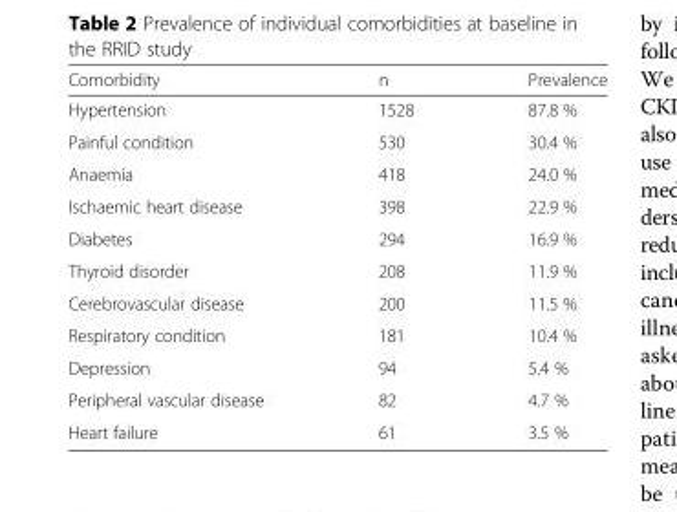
<table><thead><tr><td>Comorbidity</td><td>n</td><td>Prevalence</td></tr></thead><tbody><tr><td>Hypertension</td><td>1528</td><td>87.8 %</td></tr><tr><td>Painful condition</td><td>530</td><td>30.4 %</td></tr><tr><td>Anaemia</td><td>418</td><td>24.0 %</td></tr><tr><td>Ischaemic heart disease</td><td>398</td><td>22.9 %</td></tr><tr><td>Diabetes</td><td>294</td><td>16.9 %</td></tr><tr><td>Thyroid disorder</td><td>208</td><td>11.9 %</td></tr><tr><td>Cerebrovascular disease</td><td>200</td><td>11.5 %</td></tr><tr><td>Respiratory condition</td><td>181</td><td>10.4 %</td></tr><tr><td>Depression</td><td>94</td><td>5.4 %</td></tr><tr><td>Peripheral vascular disease</td><td>82</td><td>4.7 %</td></tr><tr><td>Heart failure</td><td>61</td><td>3.5 %</td></tr></tbody></table>